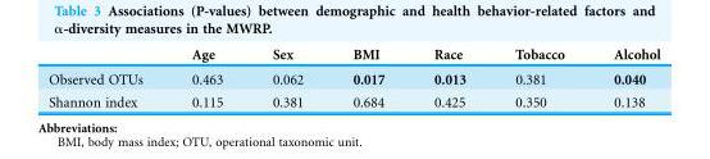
<table><thead><tr><td></td><td>Age</td><td>Sex</td><td>BMI</td><td>Race</td><td>Tobacco</td><td>Alcohol</td></tr></thead><tbody><tr><td>Observed OTUs</td><td>0.463</td><td>0.062</td><td>0.017</td><td>0.013</td><td>0.381</td><td>0.040</td></tr><tr><td>Shannon index</td><td>0.115</td><td>0.381</td><td>0.684</td><td>0.425</td><td>0.350</td><td>0.138</td></tr></tbody></table>